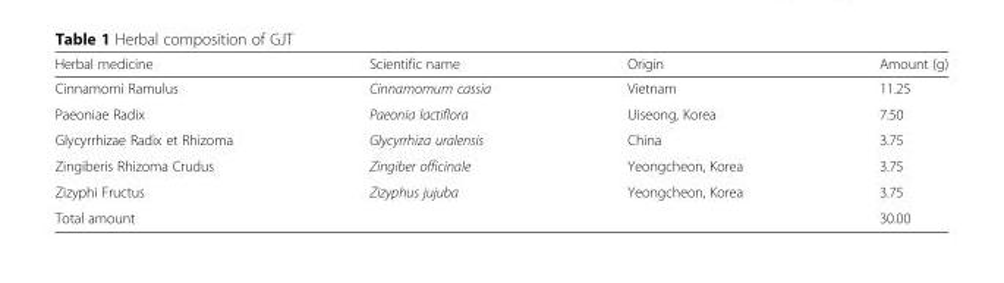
<table><thead><tr><td>Herbal medicine</td><td>Scientific name</td><td>Origin</td><td>Amount (g)</td></tr></thead><tbody><tr><td>Cinnamomi Ramulus</td><td>Cinnamomum cassia</td><td>Vietnam</td><td>11.25</td></tr><tr><td>Paeoniae Radix</td><td>Paeonia lactiflora</td><td>Uiseong, Korea</td><td>7.50</td></tr><tr><td>Glycyrrhizae Radix et Rhizoma</td><td>Glycyrrhiza uralensis</td><td>China</td><td>3.75</td></tr><tr><td>Zingiberis Rhizoma Crudus</td><td>Zingiber officinale</td><td>Yeongcheon, Korea</td><td>3.75</td></tr><tr><td>Zizyphi Fructus</td><td>Zizyphus jujuba</td><td>Yeongcheon, Korea</td><td>3.75</td></tr><tr><td colspan="2">Total amount</td><td></td><td>30.00</td></tr></tbody></table>